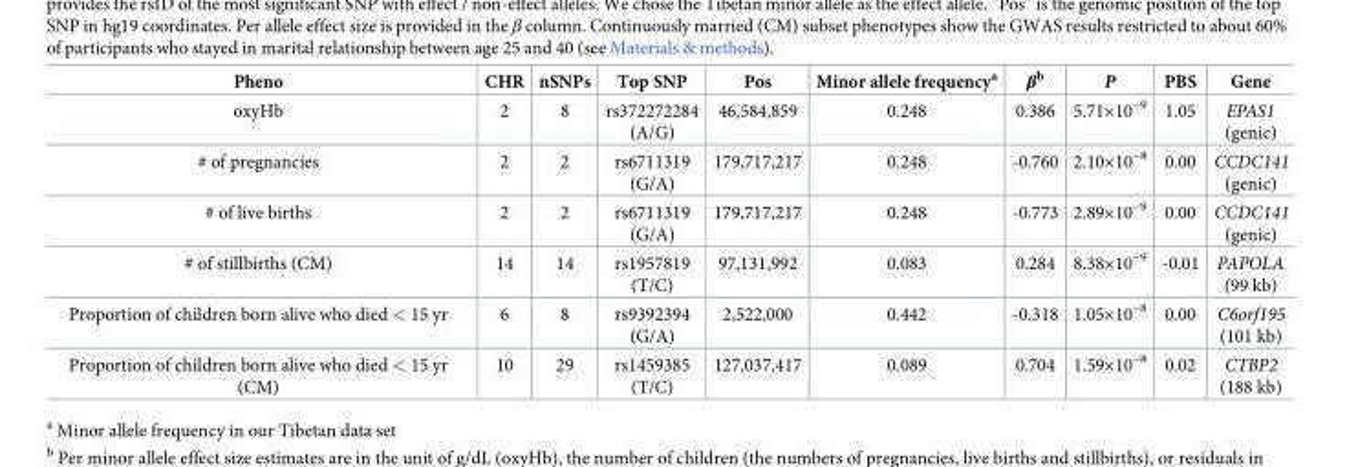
<table><thead><tr><td>Pheno</td><td>CHR</td><td>nSNPs</td><td>Top SNP</td><td>Pos</td><td>Minor allele frequency<sup>a</sup></td><td>β<sup>b</sup></td><td>P</td><td>PBS</td><td>Gene</td></tr></thead><tbody><tr><td>oxyHb</td><td>2</td><td>8</td><td>rs372272284 (A/G)</td><td>46,584,859</td><td>0.248</td><td>0.386</td><td>5.71×10<sup>−9</sup></td><td>1.05</td><td>EPAS1 (genic)</td></tr><tr><td># of pregnancies</td><td>2</td><td>2</td><td>rs6711319 (G/A)</td><td>179,717,217</td><td>0.248</td><td>-0.760</td><td>2.10×10<sup>−8</sup></td><td>0.00</td><td>CCDC141 (genic)</td></tr><tr><td># of live births</td><td>2</td><td>2</td><td>rs6711319 (G/A)</td><td>179,717,217</td><td>0.248</td><td>-0.773</td><td>2.89×10<sup>−9</sup></td><td>0.00</td><td>CCDC141 (genic)</td></tr><tr><td># of stillbirths (CM)</td><td>14</td><td>14</td><td>rs1957819 (T/C)</td><td>97,131,992</td><td>0.083</td><td>0.284</td><td>8.38×10<sup>−9</sup></td><td>-0.01</td><td>PAPOLA (99 kb)</td></tr><tr><td>Proportion of children born alive who died &lt; 15 yr</td><td>6</td><td>8</td><td>rs9392394 (G/A)</td><td>2,522,000</td><td>0.442</td><td>-0.318</td><td>1.05×10<sup>−8</sup></td><td>0.00</td><td>C6orf195 (101 kb)</td></tr><tr><td>Proportion of children born alive who died &lt; 15 yr (CM)</td><td>10</td><td>29</td><td>rs1459385 (T/C)</td><td>127,037,417</td><td>0.089</td><td>0.704</td><td>1.59×10<sup>−8</sup></td><td>0.02</td><td>CTBP2 (188 kb)</td></tr></tbody></table>